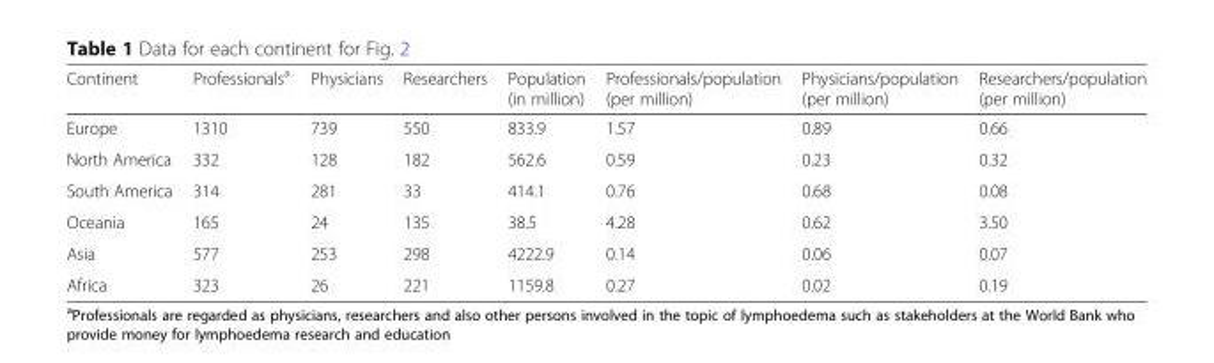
<table><thead><tr><td>Continent</td><td>Professionals<sup>a</sup></td><td>Physicians</td><td>Researchers</td><td>Population (in million)</td><td>Professionals/population (per million)</td><td>Physicians/population (per million)</td><td>Researchers/population (per million)</td></tr></thead><tbody><tr><td>Europe</td><td>1310</td><td>739</td><td>550</td><td>833.9</td><td>1.57</td><td>0.89</td><td>0.66</td></tr><tr><td>North America</td><td>332</td><td>128</td><td>182</td><td>562.6</td><td>0.59</td><td>0.23</td><td>0.32</td></tr><tr><td>South America</td><td>314</td><td>281</td><td>33</td><td>414.1</td><td>0.76</td><td>0.68</td><td>0.08</td></tr><tr><td>Oceania</td><td>165</td><td>24</td><td>135</td><td>38.5</td><td>4.28</td><td>0.62</td><td>3.50</td></tr><tr><td>Asia</td><td>577</td><td>253</td><td>298</td><td>4222.9</td><td>0.14</td><td>0.06</td><td>0.07</td></tr><tr><td>Africa</td><td>323</td><td>26</td><td>221</td><td>1159.8</td><td>0.27</td><td>0.02</td><td>0.19</td></tr></tbody></table>